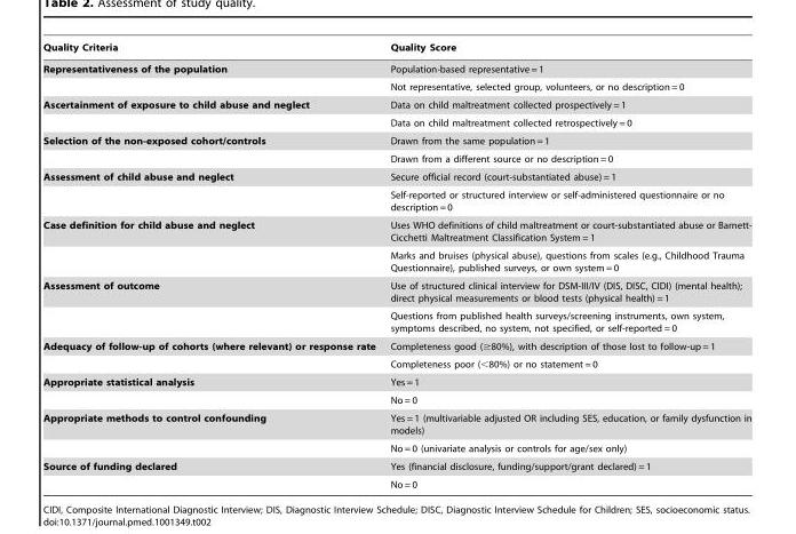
<table><thead><tr><td>Quality Criteria</td><td>Quality Score</td></tr></thead><tbody><tr><td rowspan="2">Representativeness of the population</td><td>Population-based representative = 1</td></tr><tr><td>Not representative, selected group, volunteers, or no description = 0</td></tr><tr><td rowspan="2">Ascertainment of exposure to child abuse and neglect</td><td>Data on child maltreatment collected prospectively = 1</td></tr><tr><td>Data on child maltreatment collected retrospectively = 0</td></tr><tr><td rowspan="2">Selection of the non-exposed cohort/controls</td><td>Drawn from the same population = 1</td></tr><tr><td>Drawn from a different source or no description = 0</td></tr><tr><td rowspan="2">Assessment of child abuse and neglect</td><td>Secure official record (court-substantiated abuse) = 1</td></tr><tr><td>Self-reported or structured interview or self-administered questionnaire or no description = 0</td></tr><tr><td rowspan="2">Case definition for child abuse and neglect</td><td>Uses WHO definitions of child maltreatment or court-substantiated abuse or Barnett- Cicchetti Maltreatment Classification System = 1</td></tr><tr><td>Marks and bruises (physical abuse), questions from scales (e.g., Childhood Trauma Questionnaire), published surveys, or own system = 0</td></tr><tr><td rowspan="2">Assessment of outcome</td><td>Use of structured clinical interview for DSM-III/IV (DIS, DISC, CIDI) (mental health); direct physical measurements or blood tests (physical health) = 1</td></tr><tr><td>Questions from published health surveys/screening instruments, own system, symptoms described, no system, not specified, or self-reported = 0</td></tr><tr><td rowspan="2">Adequacy of follow-up of cohorts (where relevant) or response rate</td><td>Completeness good (≥80%), with description of those lost to follow-up = 1</td></tr><tr><td>Completeness poor (&lt;80%) or no statement = 0</td></tr><tr><td rowspan="2">Appropriate statistical analysis</td><td>Yes = 1</td></tr><tr><td>No = 0</td></tr><tr><td rowspan="2">Appropriate methods to control confounding</td><td>Yes = 1 (multivariable adjusted OR including SES, education, or family dysfunction in models)</td></tr><tr><td>No = 0 (univariate analysis or controls for age/sex only)</td></tr><tr><td rowspan="2">Source of funding declared</td><td>Yes (financial disclosure, funding/support/grant declared) = 1</td></tr><tr><td>No = 0</td></tr></tbody></table>